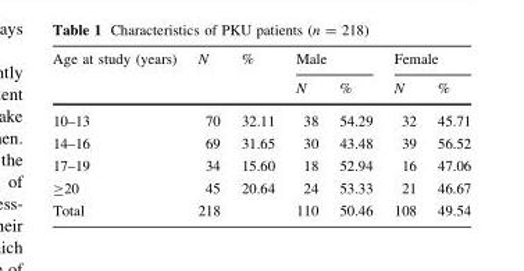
<table><thead><tr><td rowspan="2">Age at study (years)</td><td rowspan="2">N</td><td rowspan="2">%</td><td colspan="2">Male</td><td colspan="2">Female</td></tr><tr><td>N</td><td>%</td><td>N</td><td>%</td></tr></thead><tbody><tr><td>10–13</td><td>70</td><td>32.11</td><td>38</td><td>54.29</td><td>32</td><td>45.71</td></tr><tr><td>14–16</td><td>69</td><td>31.65</td><td>30</td><td>43.48</td><td>39</td><td>56.52</td></tr><tr><td>17–19</td><td>34</td><td>15.60</td><td>18</td><td>52.94</td><td>16</td><td>47.06</td></tr><tr><td>≥20</td><td>45</td><td>20.64</td><td>24</td><td>53.33</td><td>21</td><td>46.67</td></tr><tr><td>Total</td><td>218</td><td></td><td>110</td><td>50.46</td><td>108</td><td>49.54</td></tr></tbody></table>